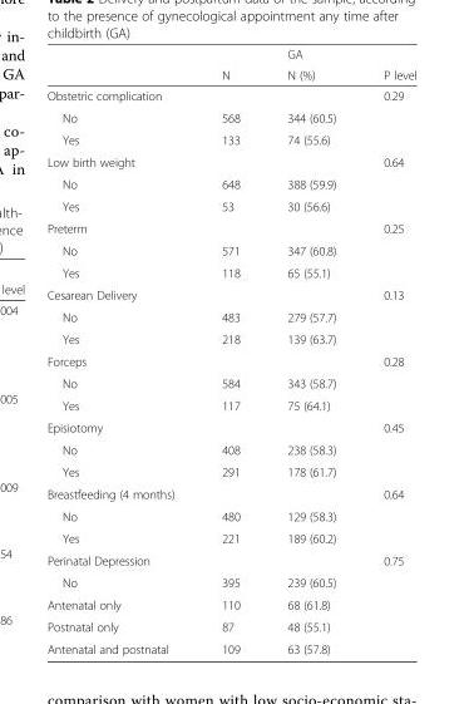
<table><thead><tr><td rowspan="2"></td><td rowspan="2">N</td><td rowspan="2">GA N (%)</td><td rowspan="2">P level</td></tr><tr></tr></thead><tbody><tr><td>Obstetric complication</td><td></td><td></td><td>0.29</td></tr><tr><td>No</td><td>568</td><td>344 (60.5)</td><td></td></tr><tr><td>Yes</td><td>133</td><td>74 (55.6)</td><td></td></tr><tr><td>Low birth weight</td><td></td><td></td><td>0.64</td></tr><tr><td>No</td><td>648</td><td>388 (59.9)</td><td></td></tr><tr><td>Yes</td><td>53</td><td>30 (56.6)</td><td></td></tr><tr><td>Preterm</td><td></td><td></td><td>0.25</td></tr><tr><td>No</td><td>571</td><td>347 (60.8)</td><td></td></tr><tr><td>Yes</td><td>118</td><td>65 (55.1)</td><td></td></tr><tr><td>Cesarean Delivery</td><td></td><td></td><td>0.13</td></tr><tr><td>No</td><td>483</td><td>279 (57.7)</td><td></td></tr><tr><td>Yes</td><td>218</td><td>139 (63.7)</td><td></td></tr><tr><td>Forceps</td><td></td><td></td><td>0.28</td></tr><tr><td>No</td><td>584</td><td>343 (58.7)</td><td></td></tr><tr><td>Yes</td><td>117</td><td>75 (64.1)</td><td></td></tr><tr><td>Episiotomy</td><td></td><td></td><td>0.45</td></tr><tr><td>No</td><td>408</td><td>238 (58.3)</td><td></td></tr><tr><td>Yes</td><td>291</td><td>178 (61.7)</td><td></td></tr><tr><td>Breastfeeding (4 months)</td><td></td><td></td><td>0.64</td></tr><tr><td>No</td><td>480</td><td>129 (58.3)</td><td></td></tr><tr><td>Yes</td><td>221</td><td>189 (60.2)</td><td></td></tr><tr><td>Perinatal Depression</td><td></td><td></td><td>0.75</td></tr><tr><td>No</td><td>395</td><td>239 (60.5)</td><td></td></tr><tr><td>Antenatal only</td><td>110</td><td>68 (61.8)</td><td></td></tr><tr><td>Postnatal only</td><td>87</td><td>48 (55.1)</td><td></td></tr><tr><td>Antenatal and postnatal</td><td>109</td><td>63 (57.8)</td><td></td></tr></tbody></table>